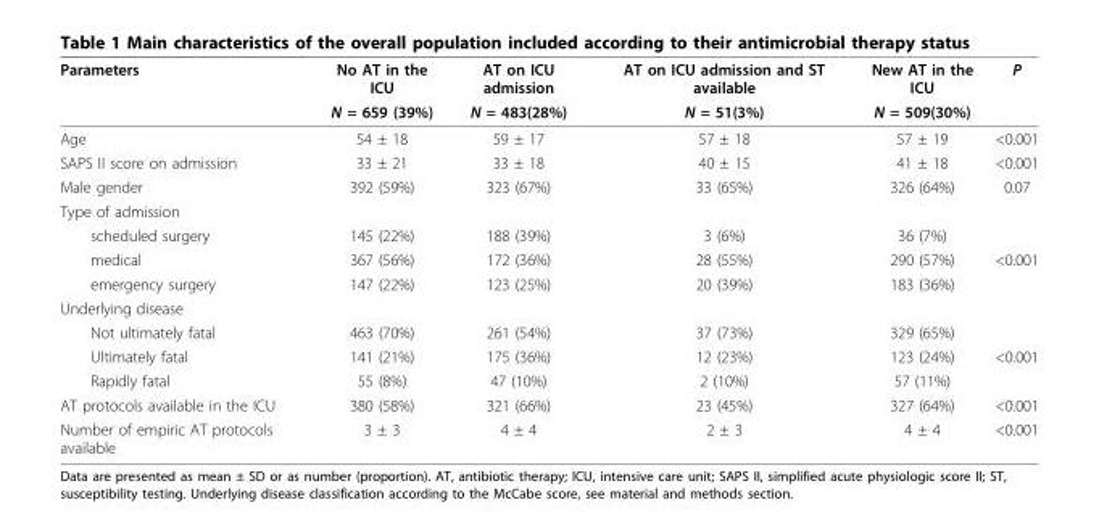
<table><thead><tr><td rowspan="2">Parameters</td><td rowspan="2">No AT in the ICU N = 659 (39%)</td><td rowspan="2">AT on ICU admission N = 483(28%)</td><td rowspan="2">AT on ICU admission and ST available N = 51(3%)</td><td rowspan="2">New AT in the ICU N = 509(30%)</td><td rowspan="2">P</td></tr><tr></tr></thead><tbody><tr><td>Age</td><td>54 ± 18</td><td>59 ± 17</td><td>57 ± 18</td><td>57 ± 19</td><td>&lt;0.001</td></tr><tr><td>SAPS II score on admission</td><td>33 ± 21</td><td>33 ± 18</td><td>40 ± 15</td><td>41 ± 18</td><td>&lt;0.001</td></tr><tr><td>Male gender</td><td>392 (59%)</td><td>323 (67%)</td><td>33 (65%)</td><td>326 (64%)</td><td>0.07</td></tr><tr><td colspan="6">Type of admission</td></tr><tr><td>scheduled surgery</td><td>145 (22%)</td><td>188 (39%)</td><td>3 (6%)</td><td>36 (7%)</td><td></td></tr><tr><td>medical</td><td>367 (56%)</td><td>172 (36%)</td><td>28 (55%)</td><td>290 (57%)</td><td>&lt;0.001</td></tr><tr><td>emergency surgery</td><td>147 (22%)</td><td>123 (25%)</td><td>20 (39%)</td><td>183 (36%)</td><td></td></tr><tr><td colspan="6">Underlying disease</td></tr><tr><td>Not ultimately fatal</td><td>463 (70%)</td><td>261 (54%)</td><td>37 (73%)</td><td>329 (65%)</td><td></td></tr><tr><td>Ultimately fatal</td><td>141 (21%)</td><td>175 (36%)</td><td>12 (23%)</td><td>123 (24%)</td><td>&lt;0.001</td></tr><tr><td>Rapidly fatal</td><td>55 (8%)</td><td>47 (10%)</td><td>2 (10%)</td><td>57 (11%)</td><td></td></tr><tr><td>AT protocols available in the ICU</td><td>380 (58%)</td><td>321 (66%)</td><td>23 (45%)</td><td>327 (64%)</td><td>&lt;0.001</td></tr><tr><td>Number of empiric AT protocols available</td><td>3 ± 3</td><td>4 ± 4</td><td>2 ± 3</td><td>4 ± 4</td><td>&lt;0.001</td></tr></tbody></table>